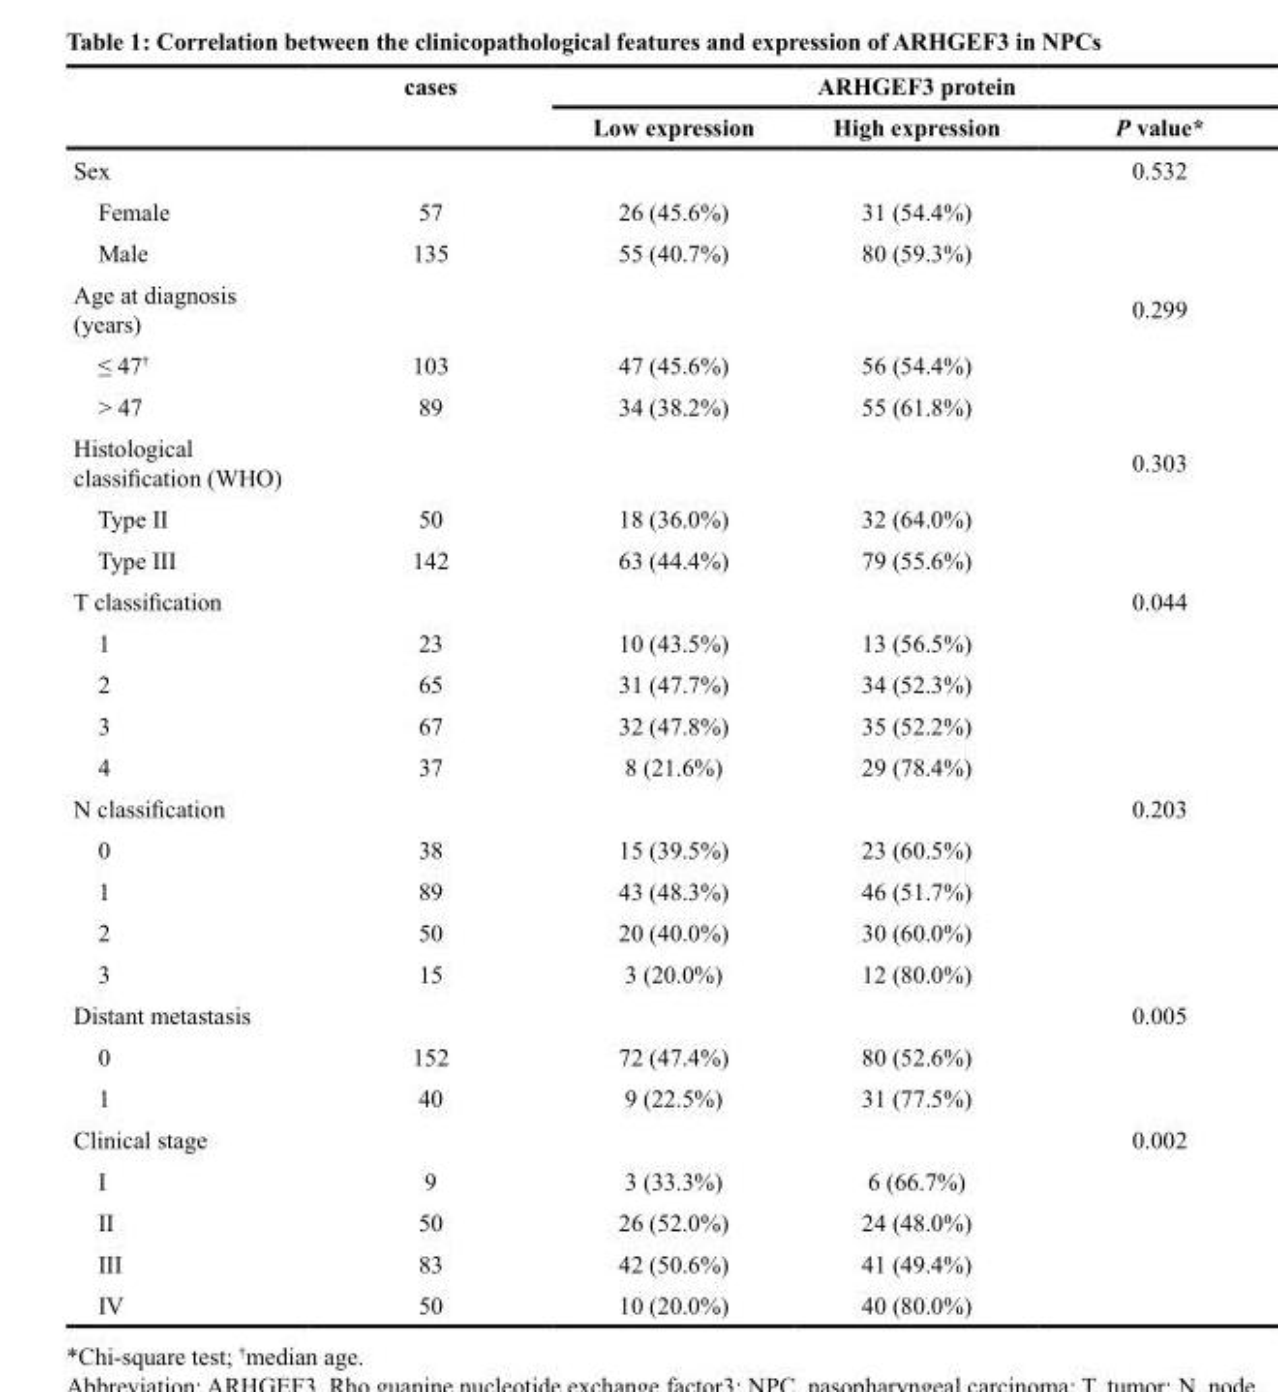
<table><thead><tr><td rowspan="2"></td><td rowspan="2">cases</td><td colspan="3">ARHGEF3 protein</td></tr><tr><td>Low expression</td><td>High expression</td><td>P value*</td></tr></thead><tbody><tr><td>Sex</td><td></td><td></td><td></td><td>0.532</td></tr><tr><td>Female</td><td>57</td><td>26 (45.6%)</td><td>31 (54.4%)</td><td></td></tr><tr><td>Male</td><td>135</td><td>55 (40.7%)</td><td>80 (59.3%)</td><td></td></tr><tr><td>Age at diagnosis (years)</td><td></td><td></td><td></td><td>0.299</td></tr><tr><td>≤ 47<sup>†</sup></td><td>103</td><td>47 (45.6%)</td><td>56 (54.4%)</td><td></td></tr><tr><td>&gt; 47</td><td>89</td><td>34 (38.2%)</td><td>55 (61.8%)</td><td></td></tr><tr><td>Histological classification (WHO)</td><td></td><td></td><td></td><td>0.303</td></tr><tr><td>Type II</td><td>50</td><td>18 (36.0%)</td><td>32 (64.0%)</td><td></td></tr><tr><td>Type III</td><td>142</td><td>63 (44.4%)</td><td>79 (55.6%)</td><td></td></tr><tr><td>T classification</td><td></td><td></td><td></td><td>0.044</td></tr><tr><td>1</td><td>23</td><td>10 (43.5%)</td><td>13 (56.5%)</td><td></td></tr><tr><td>2</td><td>65</td><td>31 (47.7%)</td><td>34 (52.3%)</td><td></td></tr><tr><td>3</td><td>67</td><td>32 (47.8%)</td><td>35 (52.2%)</td><td></td></tr><tr><td>4</td><td>37</td><td>8 (21.6%)</td><td>29 (78.4%)</td><td></td></tr><tr><td>N classification</td><td></td><td></td><td></td><td>0.203</td></tr><tr><td>0</td><td>38</td><td>15 (39.5%)</td><td>23 (60.5%)</td><td></td></tr><tr><td>1</td><td>89</td><td>43 (48.3%)</td><td>46 (51.7%)</td><td></td></tr><tr><td>2</td><td>50</td><td>20 (40.0%)</td><td>30 (60.0%)</td><td></td></tr><tr><td>3</td><td>15</td><td>3 (20.0%)</td><td>12 (80.0%)</td><td></td></tr><tr><td>Distant metastasis</td><td></td><td></td><td></td><td>0.005</td></tr><tr><td>0</td><td>152</td><td>72 (47.4%)</td><td>80 (52.6%)</td><td></td></tr><tr><td>1</td><td>40</td><td>9 (22.5%)</td><td>31 (77.5%)</td><td></td></tr><tr><td>Clinical stage</td><td></td><td></td><td></td><td>0.002</td></tr><tr><td>I</td><td>9</td><td>3 (33.3%)</td><td>6 (66.7%)</td><td></td></tr><tr><td>II</td><td>50</td><td>26 (52.0%)</td><td>24 (48.0%)</td><td></td></tr><tr><td>III</td><td>83</td><td>42 (50.6%)</td><td>41 (49.4%)</td><td></td></tr><tr><td>IV</td><td>50</td><td>10 (20.0%)</td><td>40 (80.0%)</td><td></td></tr></tbody></table>